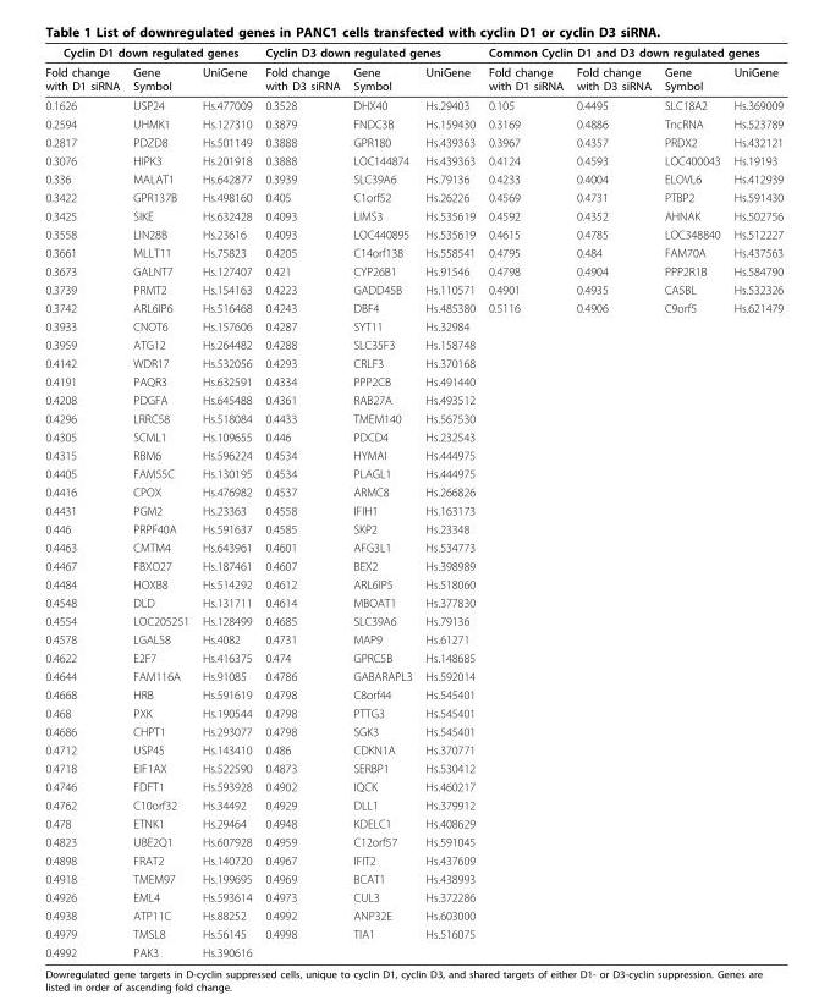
<table><thead><tr><td colspan="3">Cyclin D1 down regulated genes</td><td colspan="3">Cyclin D3 down regulated genes</td><td colspan="4">Common Cyclin D1 and D3 down regulated genes</td></tr><tr><td>Fold change with D1 siRNA</td><td>Gene Symbol</td><td>UniGene</td><td>Fold change with D3 siRNA</td><td>Gene Symbol</td><td>UniGene</td><td>Fold change with D1 siRNA</td><td>Fold change with D3 siRNA</td><td>Gene Symbol</td><td>UniGene</td></tr></thead><tbody><tr><td>0.1626</td><td>USP24</td><td>Hs.477009</td><td>0.3528</td><td>DHX40</td><td>Hs.29403</td><td>0.105</td><td>0.4495</td><td>SLC18A2</td><td>Hs.369009</td></tr><tr><td>0.2594</td><td>UHMK1</td><td>Hs.127310</td><td>0.3879</td><td>FNDC3B</td><td>Hs.159430</td><td>0.3169</td><td>0.4886</td><td>TncRNA</td><td>Hs.523789</td></tr><tr><td>0.2817</td><td>PDZD8</td><td>Hs.501149</td><td>0.3888</td><td>GPR180</td><td>Hs.439363</td><td>0.3967</td><td>0.4357</td><td>PRDX2</td><td>Hs.432121</td></tr><tr><td>0.3076</td><td>HIPK3</td><td>Hs.201918</td><td>0.3888</td><td>LOC144874</td><td>Hs.439363</td><td>0.4124</td><td>0.4593</td><td>LOC400043</td><td>Hs.19193</td></tr><tr><td>0.336</td><td>MALAT1</td><td>Hs.642877</td><td>0.3939</td><td>SLC39A6</td><td>Hs.79136</td><td>0.4233</td><td>0.4004</td><td>ELOVL6</td><td>Hs.412939</td></tr><tr><td>0.3422</td><td>GPR137B</td><td>Hs.498160</td><td>0.405</td><td>C1orf52</td><td>Hs.26226</td><td>0.4569</td><td>0.4731</td><td>PTBP2</td><td>Hs.591430</td></tr><tr><td>0.3425</td><td>SIKE</td><td>Hs.632428</td><td>0.4093</td><td>LIMS3</td><td>Hs.535619</td><td>0.4592</td><td>0.4352</td><td>AHNAK</td><td>Hs.502756</td></tr><tr><td>0.3558</td><td>LIN28B</td><td>Hs.23616</td><td>0.4093</td><td>LOC440895</td><td>Hs.535619</td><td>0.4615</td><td>0.4785</td><td>LOC348840</td><td>Hs.512227</td></tr><tr><td>0.3661</td><td>MLLT11</td><td>Hs.75823</td><td>0.4205</td><td>C14orf138</td><td>Hs.558541</td><td>0.4795</td><td>0.484</td><td>FAM70A</td><td>Hs.437563</td></tr><tr><td>0.3673</td><td>GALNT7</td><td>Hs.127407</td><td>0.421</td><td>CYP26B1</td><td>Hs.91546</td><td>0.4798</td><td>0.4904</td><td>PPP2R1B</td><td>Hs.584790</td></tr><tr><td>0.3739</td><td>PRMT2</td><td>Hs.154163</td><td>0.4223</td><td>GADD45B</td><td>Hs.110571</td><td>0.4901</td><td>0.4935</td><td>CA5BL</td><td>Hs.532326</td></tr><tr><td>0.3742</td><td>ARL6IP6</td><td>Hs.516468</td><td>0.4243</td><td>DBF4</td><td>Hs.485380</td><td>0.5116</td><td>0.4906</td><td>C9orf5</td><td>Hs.621479</td></tr><tr><td>0.3933</td><td>CNOT6</td><td>Hs.157606</td><td>0.4287</td><td>SYT11</td><td>Hs.32984</td><td></td><td></td><td></td><td></td></tr><tr><td>0.3959</td><td>ATG12</td><td>Hs.264482</td><td>0.4288</td><td>SLC35F3</td><td>Hs.158748</td><td></td><td></td><td></td><td></td></tr><tr><td>0.4142</td><td>WDR17</td><td>Hs.532056</td><td>0.4293</td><td>CRLF3</td><td>Hs.370168</td><td></td><td></td><td></td><td></td></tr><tr><td>0.4191</td><td>PAQR3</td><td>Hs.632591</td><td>0.4334</td><td>PPP2CB</td><td>Hs.491440</td><td></td><td></td><td></td><td></td></tr><tr><td>0.4208</td><td>PDGFA</td><td>Hs.645488</td><td>0.4361</td><td>RAB27A</td><td>Hs.493512</td><td></td><td></td><td></td><td></td></tr><tr><td>0.4296</td><td>LRRC58</td><td>Hs.518084</td><td>0.4433</td><td>TMEM140</td><td>Hs.567530</td><td></td><td></td><td></td><td></td></tr><tr><td>0.4305</td><td>SCML1</td><td>Hs.109655</td><td>0.446</td><td>PDCD4</td><td>Hs.232543</td><td></td><td></td><td></td><td></td></tr><tr><td>0.4315</td><td>RBM6</td><td>Hs.596224</td><td>0.4534</td><td>HYMAI</td><td>Hs.444975</td><td></td><td></td><td></td><td></td></tr><tr><td>0.4405</td><td>FAM55C</td><td>Hs.130195</td><td>0.4534</td><td>PLAGL1</td><td>Hs.444975</td><td></td><td></td><td></td><td></td></tr><tr><td>0.4416</td><td>CPOX</td><td>Hs.476982</td><td>0.4537</td><td>ARMC8</td><td>Hs.266826</td><td></td><td></td><td></td><td></td></tr><tr><td>0.4431</td><td>PGM2</td><td>Hs.23363</td><td>0.4558</td><td>IFIH1</td><td>Hs.163173</td><td></td><td></td><td></td><td></td></tr><tr><td>0.446</td><td>PRPF40A</td><td>Hs.591637</td><td>0.4585</td><td>SKP2</td><td>Hs.23348</td><td></td><td></td><td></td><td></td></tr><tr><td>0.4463</td><td>CMTM4</td><td>Hs.643961</td><td>0.4601</td><td>AFG3L1</td><td>Hs.534773</td><td></td><td></td><td></td><td></td></tr><tr><td>0.4467</td><td>FBXO27</td><td>Hs.187461</td><td>0.4607</td><td>BEX2</td><td>Hs.398989</td><td></td><td></td><td></td><td></td></tr><tr><td>0.4484</td><td>HOXB8</td><td>Hs.514292</td><td>0.4612</td><td>ARL6IP5</td><td>Hs.518060</td><td></td><td></td><td></td><td></td></tr><tr><td>0.4548</td><td>DLD</td><td>Hs.131711</td><td>0.4614</td><td>MBOAT1</td><td>Hs.377830</td><td></td><td></td><td></td><td></td></tr><tr><td>0.4554</td><td>LOC205251</td><td>Hs.128499</td><td>0.4685</td><td>SLC39A6</td><td>Hs.79136</td><td></td><td></td><td></td><td></td></tr><tr><td>0.4578</td><td>LGALS8</td><td>Hs.4082</td><td>0.4731</td><td>MAP9</td><td>Hs.61271</td><td></td><td></td><td></td><td></td></tr><tr><td>0.4622</td><td>E2F7</td><td>Hs.416375</td><td>0.474</td><td>GPRC5B</td><td>Hs.148685</td><td></td><td></td><td></td><td></td></tr><tr><td>0.4644</td><td>FAM116A</td><td>Hs.91085</td><td>0.4786</td><td>GABARAPL3</td><td>Hs.592014</td><td></td><td></td><td></td><td></td></tr><tr><td>0.4668</td><td>HRB</td><td>Hs.591619</td><td>0.4798</td><td>C8orf44</td><td>Hs.545401</td><td></td><td></td><td></td><td></td></tr><tr><td>0.468</td><td>PXK</td><td>Hs.190544</td><td>0.4798</td><td>PTTG3</td><td>Hs.545401</td><td></td><td></td><td></td><td></td></tr><tr><td>0.4686</td><td>CHPT1</td><td>Hs.293077</td><td>0.4798</td><td>SGK3</td><td>Hs.545401</td><td></td><td></td><td></td><td></td></tr><tr><td>0.4712</td><td>USP45</td><td>Hs.143410</td><td>0.486</td><td>CDKN1A</td><td>Hs.370771</td><td></td><td></td><td></td><td></td></tr><tr><td>0.4718</td><td>EIF1AX</td><td>Hs.522590</td><td>0.4873</td><td>SERBP1</td><td>Hs.530412</td><td></td><td></td><td></td><td></td></tr><tr><td>0.4746</td><td>FDFT1</td><td>Hs.593928</td><td>0.4902</td><td>IQCK</td><td>Hs.460217</td><td></td><td></td><td></td><td></td></tr><tr><td>0.4762</td><td>C10orf32</td><td>Hs.34492</td><td>0.4929</td><td>DLL1</td><td>Hs.379912</td><td></td><td></td><td></td><td></td></tr><tr><td>0.478</td><td>ETNK1</td><td>Hs.29464</td><td>0.4948</td><td>KDELC1</td><td>Hs.408629</td><td></td><td></td><td></td><td></td></tr><tr><td>0.4823</td><td>UBE2Q1</td><td>Hs.607928</td><td>0.4959</td><td>C12orf57</td><td>Hs.591045</td><td></td><td></td><td></td><td></td></tr><tr><td>0.4898</td><td>FRAT2</td><td>Hs.140720</td><td>0.4967</td><td>IFIT2</td><td>Hs.437609</td><td></td><td></td><td></td><td></td></tr><tr><td>0.4918</td><td>TMEM97</td><td>Hs.199695</td><td>0.4969</td><td>BCAT1</td><td>Hs.438993</td><td></td><td></td><td></td><td></td></tr><tr><td>0.4926</td><td>EML4</td><td>Hs.593614</td><td>0.4973</td><td>CUL3</td><td>Hs.372286</td><td></td><td></td><td></td><td></td></tr><tr><td>0.4938</td><td>ATP11C</td><td>Hs.88252</td><td>0.4992</td><td>ANP32E</td><td>Hs.603000</td><td></td><td></td><td></td><td></td></tr><tr><td>0.4979</td><td>TMSL8</td><td>Hs.56145</td><td>0.4998</td><td>TIA1</td><td>Hs.516075</td><td></td><td></td><td></td><td></td></tr><tr><td>0.4992</td><td>PAK3</td><td>Hs.390616</td><td></td><td></td><td></td><td></td><td></td><td></td><td></td></tr></tbody></table>